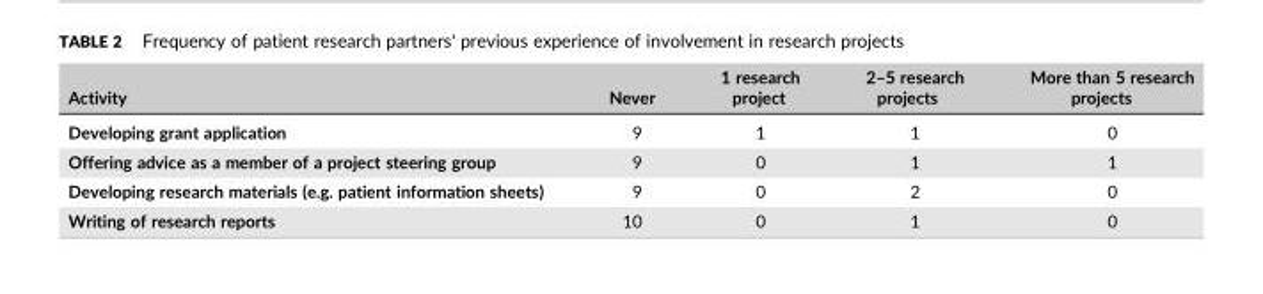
<table><thead><tr><td>Activity</td><td>Never</td><td>1 research project</td><td>2–5 research projects</td><td>More than 5 research projects</td></tr></thead><tbody><tr><td>Developing grant application</td><td>9</td><td>1</td><td>1</td><td>0</td></tr><tr><td>Offering advice as a member of a project steering group</td><td>9</td><td>0</td><td>1</td><td>1</td></tr><tr><td>Developing research materials (e.g. patient information sheets)</td><td>9</td><td>0</td><td>2</td><td>0</td></tr><tr><td>Writing of research reports</td><td>10</td><td>0</td><td>1</td><td>0</td></tr></tbody></table>